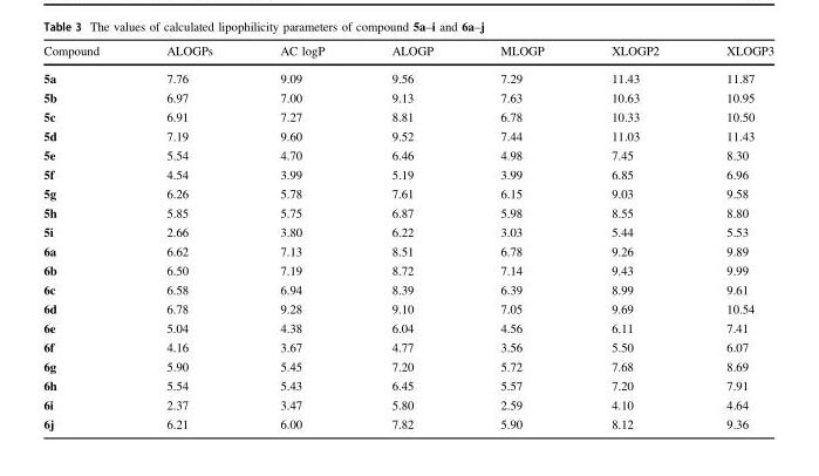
<table><thead><tr><td>Compound</td><td>ALOGPs</td><td>AC logP</td><td>ALOGP</td><td>MLOGP</td><td>XLOGP2</td><td>XLOGP3</td></tr></thead><tbody><tr><td>5a</td><td>7.76</td><td>9.09</td><td>9.56</td><td>7.29</td><td>11.43</td><td>11.87</td></tr><tr><td>5b</td><td>6.97</td><td>7.00</td><td>9.13</td><td>7.63</td><td>10.63</td><td>10.95</td></tr><tr><td>5c</td><td>6.91</td><td>7.27</td><td>8.81</td><td>6.78</td><td>10.33</td><td>10.50</td></tr><tr><td>5d</td><td>7.19</td><td>9.60</td><td>9.52</td><td>7.44</td><td>11.03</td><td>11.43</td></tr><tr><td>5e</td><td>5.54</td><td>4.70</td><td>6.46</td><td>4.98</td><td>7.45</td><td>8.30</td></tr><tr><td>5f</td><td>4.54</td><td>3.99</td><td>5.19</td><td>3.99</td><td>6.85</td><td>6.96</td></tr><tr><td>5g</td><td>6.26</td><td>5.78</td><td>7.61</td><td>6.15</td><td>9.03</td><td>9.58</td></tr><tr><td>5h</td><td>5.85</td><td>5.75</td><td>6.87</td><td>5.98</td><td>8.55</td><td>8.80</td></tr><tr><td>5i</td><td>2.66</td><td>3.80</td><td>6.22</td><td>3.03</td><td>5.44</td><td>5.53</td></tr><tr><td>6a</td><td>6.62</td><td>7.13</td><td>8.51</td><td>6.78</td><td>9.26</td><td>9.89</td></tr><tr><td>6b</td><td>6.50</td><td>7.19</td><td>8.72</td><td>7.14</td><td>9.43</td><td>9.99</td></tr><tr><td>6c</td><td>6.58</td><td>6.94</td><td>8.39</td><td>6.39</td><td>8.99</td><td>9.61</td></tr><tr><td>6d</td><td>6.78</td><td>9.28</td><td>9.10</td><td>7.05</td><td>9.69</td><td>10.54</td></tr><tr><td>6e</td><td>5.04</td><td>4.38</td><td>6.04</td><td>4.56</td><td>6.11</td><td>7.41</td></tr><tr><td>6f</td><td>4.16</td><td>3.67</td><td>4.77</td><td>3.56</td><td>5.50</td><td>6.07</td></tr><tr><td>6g</td><td>5.90</td><td>5.45</td><td>7.20</td><td>5.72</td><td>7.68</td><td>8.69</td></tr><tr><td>6h</td><td>5.54</td><td>5.43</td><td>6.45</td><td>5.57</td><td>7.20</td><td>7.91</td></tr><tr><td>6i</td><td>2.37</td><td>3.47</td><td>5.80</td><td>2.59</td><td>4.10</td><td>4.64</td></tr><tr><td>6j</td><td>6.21</td><td>6.00</td><td>7.82</td><td>5.90</td><td>8.12</td><td>9.36</td></tr></tbody></table>